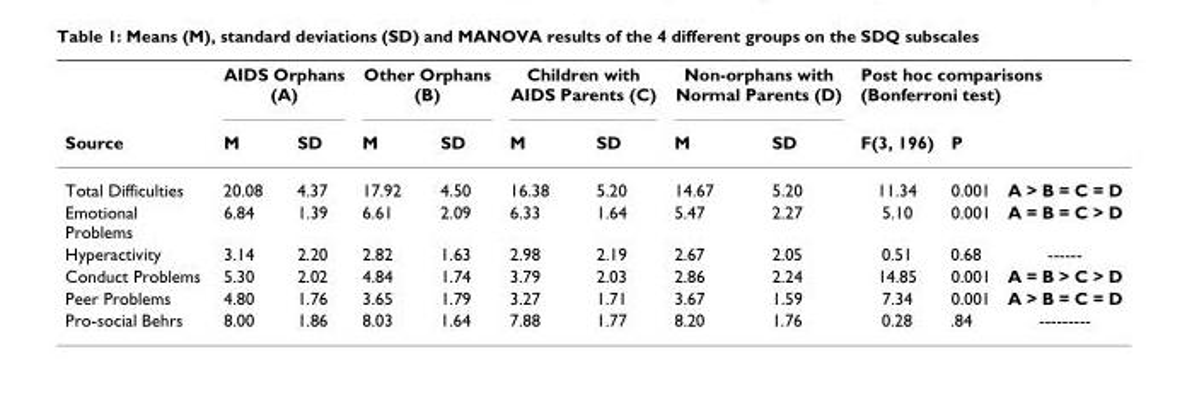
<table><thead><tr><td rowspan="2">Source</td><td colspan="2">AIDS Orphans (A)</td><td colspan="2">Other Orphans (B)</td><td colspan="2">Children with AIDS Parents (C)</td><td colspan="2">Non-orphans with Normal Parents (D)</td><td colspan="3">Post hoc comparisons (Bonferroni test)</td></tr><tr><td>M</td><td>SD</td><td>M</td><td>SD</td><td>M</td><td>SD</td><td>M</td><td>SD</td><td>F(3, 196)</td><td>P</td><td></td></tr></thead><tbody><tr><td>Total Difficulties</td><td>20.08</td><td>4.37</td><td>17.92</td><td>4.50</td><td>16.38</td><td>5.20</td><td>14.67</td><td>5.20</td><td>11.34</td><td>0.001</td><td>A &gt; B = C = D</td></tr><tr><td>Emotional Problems</td><td>6.84</td><td>1.39</td><td>6.61</td><td>2.09</td><td>6.33</td><td>1.64</td><td>5.47</td><td>2.27</td><td>5.10</td><td>0.001</td><td>A = B = C &gt; D</td></tr><tr><td>Hyperactivity</td><td>3.14</td><td>2.20</td><td>2.82</td><td>1.63</td><td>2.98</td><td>2.19</td><td>2.67</td><td>2.05</td><td>0.51</td><td>0.68</td><td>------</td></tr><tr><td>Conduct Problems</td><td>5.30</td><td>2.02</td><td>4.84</td><td>1.74</td><td>3.79</td><td>2.03</td><td>2.86</td><td>2.24</td><td>14.85</td><td>0.001</td><td>A = B &gt; C &gt; D</td></tr><tr><td>Peer Problems</td><td>4.80</td><td>1.76</td><td>3.65</td><td>1.79</td><td>3.27</td><td>1.71</td><td>3.67</td><td>1.59</td><td>7.34</td><td>0.001</td><td>A &gt; B = C = D</td></tr><tr><td>Pro-social Behrs</td><td>8.00</td><td>1.86</td><td>8.03</td><td>1.64</td><td>7.88</td><td>1.77</td><td>8.20</td><td>1.76</td><td>0.28</td><td>.84</td><td>---------</td></tr></tbody></table>